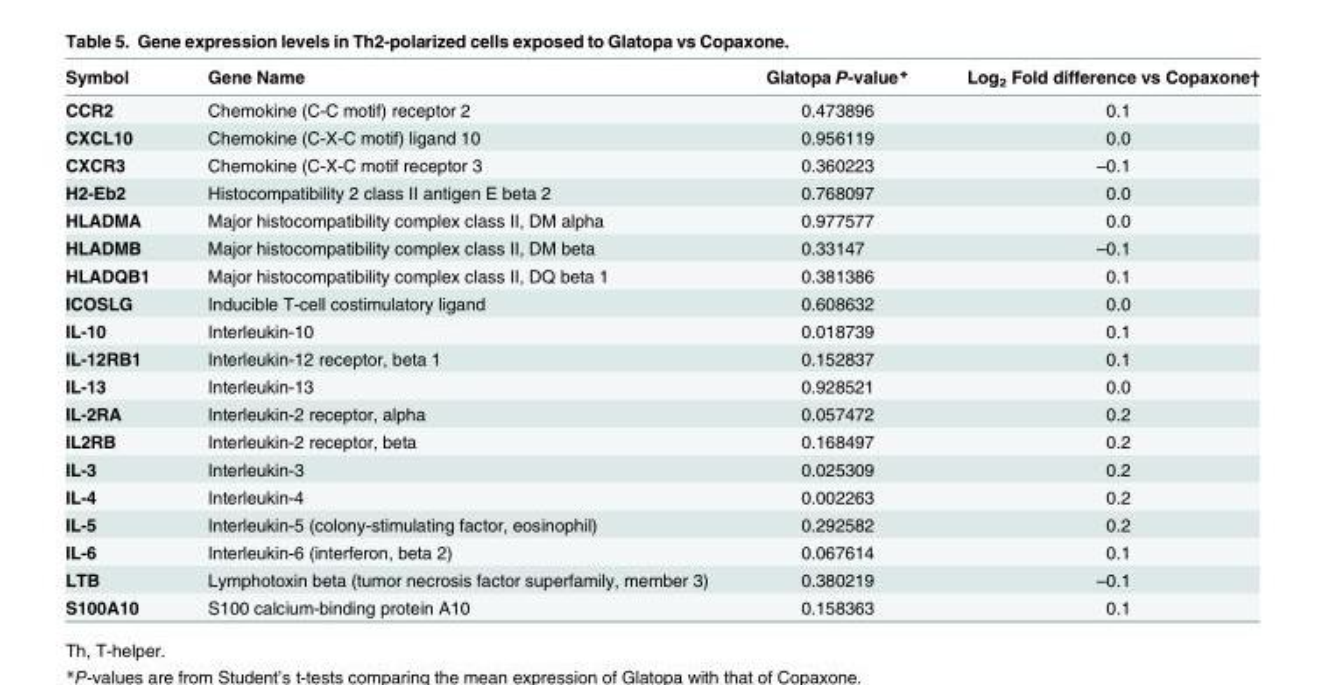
<table><thead><tr><td>Symbol</td><td>Gene Name</td><td>Glatopa P-value*</td><td>Log<sub>2</sub> Fold difference vs Copaxone†</td></tr></thead><tbody><tr><td>CCR2</td><td>Chemokine (C-C motif) receptor 2</td><td>0.473896</td><td>0.1</td></tr><tr><td>CXCL10</td><td>Chemokine (C-X-C motif) ligand 10</td><td>0.956119</td><td>0.0</td></tr><tr><td>CXCR3</td><td>Chemokine (C-X-C motif receptor 3</td><td>0.360223</td><td>–0.1</td></tr><tr><td>H2-Eb2</td><td>Histocompatibility 2 class II antigen E beta 2</td><td>0.768097</td><td>0.0</td></tr><tr><td>HLADMA</td><td>Major histocompatibility complex class II, DM alpha</td><td>0.977577</td><td>0.0</td></tr><tr><td>HLADMB</td><td>Major histocompatibility complex class II, DM beta</td><td>0.33147</td><td>–0.1</td></tr><tr><td>HLADQB1</td><td>Major histocompatibility complex class II, DQ beta 1</td><td>0.381386</td><td>0.1</td></tr><tr><td>ICOSLG</td><td>Inducible T-cell costimulatory ligand</td><td>0.608632</td><td>0.0</td></tr><tr><td>IL-10</td><td>Interleukin-10</td><td>0.018739</td><td>0.1</td></tr><tr><td>IL-12RB1</td><td>Interleukin-12 receptor, beta 1</td><td>0.152837</td><td>0.1</td></tr><tr><td>IL-13</td><td>Interleukin-13</td><td>0.928521</td><td>0.0</td></tr><tr><td>IL-2RA</td><td>Interleukin-2 receptor, alpha</td><td>0.057472</td><td>0.2</td></tr><tr><td>IL2RB</td><td>Interleukin-2 receptor, beta</td><td>0.168497</td><td>0.2</td></tr><tr><td>IL-3</td><td>Interleukin-3</td><td>0.025309</td><td>0.2</td></tr><tr><td>IL-4</td><td>Interleukin-4</td><td>0.002263</td><td>0.2</td></tr><tr><td>IL-5</td><td>Interleukin-5 (colony-stimulating factor, eosinophil)</td><td>0.292582</td><td>0.2</td></tr><tr><td>IL-6</td><td>Interleukin-6 (interferon, beta 2)</td><td>0.067614</td><td>0.1</td></tr><tr><td>LTB</td><td>Lymphotoxin beta (tumor necrosis factor superfamily, member 3)</td><td>0.380219</td><td>–0.1</td></tr><tr><td>S100A10</td><td>S100 calcium-binding protein A10</td><td>0.158363</td><td>0.1</td></tr></tbody></table>